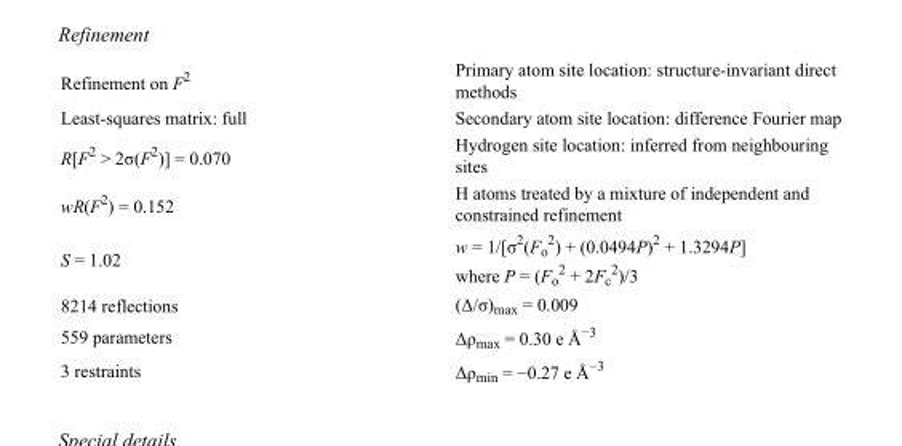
<table><tbody><tr><td>Refinement on F<sup>2</sup></td><td>Primary atom site location: structure-invariant direct methods</td></tr><tr><td>Least-squares matrix: full</td><td>Secondary atom site location: difference Fourier map</td></tr><tr><td>R[F<sup>2</sup> &gt; 2σ(F<sup>2</sup>)] = 0.070</td><td>Hydrogen site location: inferred from neighbouring sites</td></tr><tr><td>wR(F<sup>2</sup>) = 0.152</td><td>H atoms treated by a mixture of independent and constrained refinement</td></tr><tr><td>S = 1.02</td><td>w = 1/[σ<sup>2</sup>(F<sub>o</sub> <sup>2</sup>) + (0.0494P)<sup>2</sup> + 1.3294P] where P = (F<sub>o</sub> <sup>2</sup> + 2F<sub>c</sub> <sup>2</sup>)/3</td></tr><tr><td>8214 reflections</td><td>(Δ/σ)<sub>max</sub> = 0.009</td></tr><tr><td>559 parameters</td><td>Δρ<sub>max</sub> = 0.30 e Å<sup>−3</sup></td></tr><tr><td>3 restraints</td><td>Δρ<sub>min</sub> = −0.27 e Å<sup>−3</sup></td></tr></tbody></table>